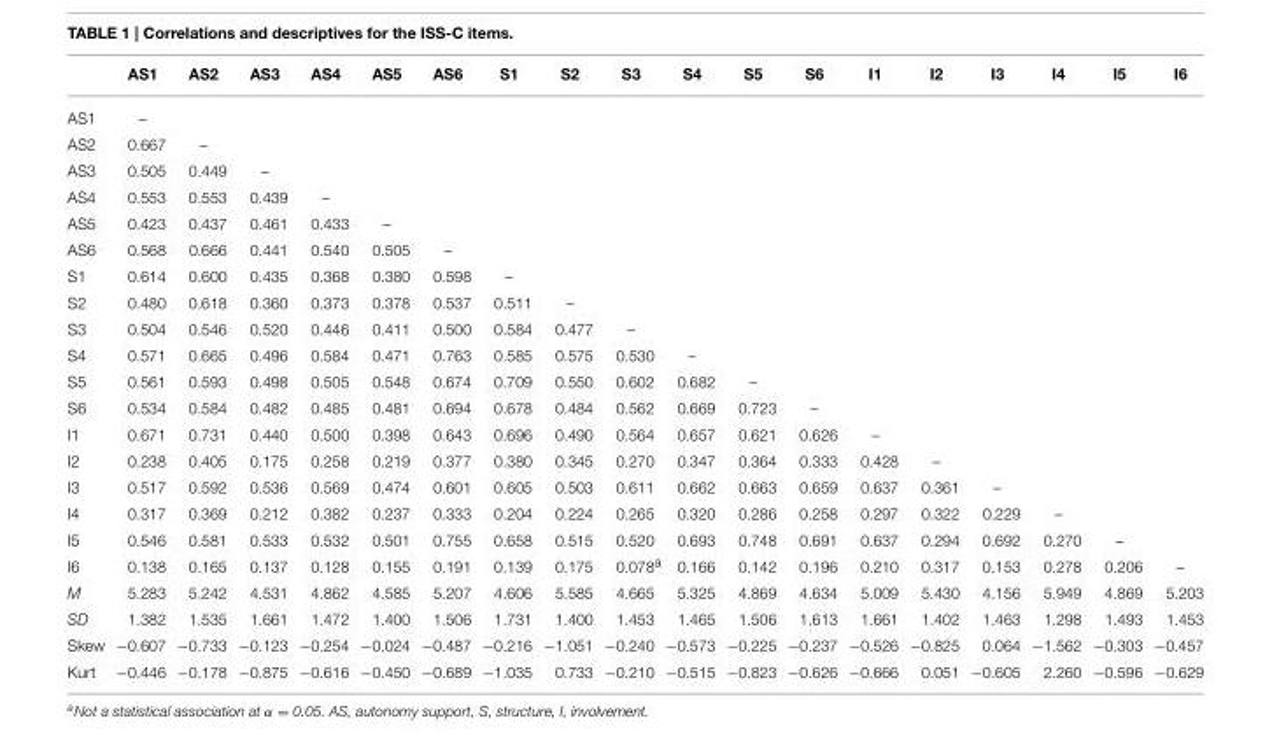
<table><thead><tr><td></td><td>AS1</td><td>AS2</td><td>AS3</td><td>AS4</td><td>AS5</td><td>AS6</td><td>S1</td><td>S2</td><td>S3</td><td>S4</td><td>S5</td><td>S6</td><td>I1</td><td>I2</td><td>I3</td><td>I4</td><td>I5</td><td>I6</td></tr></thead><tbody><tr><td>AS1</td><td>–</td><td></td><td></td><td></td><td></td><td></td><td></td><td></td><td></td><td></td><td></td><td></td><td></td><td></td><td></td><td></td><td></td><td></td></tr><tr><td>AS2</td><td>0.667</td><td>–</td><td></td><td></td><td></td><td></td><td></td><td></td><td></td><td></td><td></td><td></td><td></td><td></td><td></td><td></td><td></td><td></td></tr><tr><td>AS3</td><td>0.505</td><td>0.449</td><td>–</td><td></td><td></td><td></td><td></td><td></td><td></td><td></td><td></td><td></td><td></td><td></td><td></td><td></td><td></td><td></td></tr><tr><td>AS4</td><td>0.553</td><td>0.553</td><td>0.439</td><td>–</td><td></td><td></td><td></td><td></td><td></td><td></td><td></td><td></td><td></td><td></td><td></td><td></td><td></td><td></td></tr><tr><td>AS5</td><td>0.423</td><td>0.437</td><td>0.461</td><td>0.433</td><td>–</td><td></td><td></td><td></td><td></td><td></td><td></td><td></td><td></td><td></td><td></td><td></td><td></td><td></td></tr><tr><td>AS6</td><td>0.568</td><td>0.666</td><td>0.441</td><td>0.540</td><td>0.505</td><td>–</td><td></td><td></td><td></td><td></td><td></td><td></td><td></td><td></td><td></td><td></td><td></td><td></td></tr><tr><td>S1</td><td>0.614</td><td>0.600</td><td>0.435</td><td>0.368</td><td>0.380</td><td>0.598</td><td>–</td><td></td><td></td><td></td><td></td><td></td><td></td><td></td><td></td><td></td><td></td><td></td></tr><tr><td>S2</td><td>0.480</td><td>0.618</td><td>0.360</td><td>0.373</td><td>0.378</td><td>0.537</td><td>0.511</td><td>–</td><td></td><td></td><td></td><td></td><td></td><td></td><td></td><td></td><td></td><td></td></tr><tr><td>S3</td><td>0.504</td><td>0.546</td><td>0.520</td><td>0.446</td><td>0.411</td><td>0.500</td><td>0.584</td><td>0.477</td><td>–</td><td></td><td></td><td></td><td></td><td></td><td></td><td></td><td></td><td></td></tr><tr><td>S4</td><td>0.571</td><td>0.665</td><td>0.496</td><td>0.584</td><td>0.471</td><td>0.763</td><td>0.585</td><td>0.575</td><td>0.530</td><td>–</td><td></td><td></td><td></td><td></td><td></td><td></td><td></td><td></td></tr><tr><td>S5</td><td>0.561</td><td>0.593</td><td>0.498</td><td>0.505</td><td>0.548</td><td>0.674</td><td>0.709</td><td>0.550</td><td>0.602</td><td>0.682</td><td>–</td><td></td><td></td><td></td><td></td><td></td><td></td><td></td></tr><tr><td>S6</td><td>0.534</td><td>0.584</td><td>0.482</td><td>0.485</td><td>0.481</td><td>0.694</td><td>0.678</td><td>0.484</td><td>0.562</td><td>0.669</td><td>0.723</td><td>–</td><td></td><td></td><td></td><td></td><td></td><td></td></tr><tr><td>I1</td><td>0.671</td><td>0.731</td><td>0.440</td><td>0.500</td><td>0.398</td><td>0.643</td><td>0.696</td><td>0.490</td><td>0.564</td><td>0.657</td><td>0.621</td><td>0.626</td><td>–</td><td></td><td></td><td></td><td></td><td></td></tr><tr><td>I2</td><td>0.238</td><td>0.405</td><td>0.175</td><td>0.258</td><td>0.219</td><td>0.377</td><td>0.380</td><td>0.345</td><td>0.270</td><td>0.347</td><td>0.364</td><td>0.333</td><td>0.428</td><td>–</td><td></td><td></td><td></td><td></td></tr><tr><td>I3</td><td>0.517</td><td>0.592</td><td>0.536</td><td>0.569</td><td>0.474</td><td>0.601</td><td>0.605</td><td>0.503</td><td>0.611</td><td>0.662</td><td>0.663</td><td>0.659</td><td>0.637</td><td>0.361</td><td>–</td><td></td><td></td><td></td></tr><tr><td>I4</td><td>0.317</td><td>0.369</td><td>0.212</td><td>0.382</td><td>0.237</td><td>0.333</td><td>0.204</td><td>0.224</td><td>0.265</td><td>0.320</td><td>0.286</td><td>0.258</td><td>0.297</td><td>0.322</td><td>0.229</td><td>–</td><td></td><td></td></tr><tr><td>I5</td><td>0.546</td><td>0.581</td><td>0.533</td><td>0.532</td><td>0.501</td><td>0.755</td><td>0.658</td><td>0.515</td><td>0.520</td><td>0.693</td><td>0.748</td><td>0.691</td><td>0.637</td><td>0.294</td><td>0.692</td><td>0.270</td><td>–</td><td></td></tr><tr><td>I6</td><td>0.138</td><td>0.165</td><td>0.137</td><td>0.128</td><td>0.155</td><td>0.191</td><td>0.139</td><td>0.175</td><td>0.078<sup>a</sup></td><td>0.166</td><td>0.142</td><td>0.196</td><td>0.210</td><td>0.317</td><td>0.153</td><td>0.278</td><td>0.206</td><td>–</td></tr><tr><td>M</td><td>5.283</td><td>5.242</td><td>4.531</td><td>4.862</td><td>4.585</td><td>5.207</td><td>4.606</td><td>5.585</td><td>4.665</td><td>5.325</td><td>4.869</td><td>4.634</td><td>5.009</td><td>5.430</td><td>4.156</td><td>5.949</td><td>4.869</td><td>5.203</td></tr><tr><td>SD</td><td>1.382</td><td>1.535</td><td>1.661</td><td>1.472</td><td>1.400</td><td>1.506</td><td>1.731</td><td>1.400</td><td>1.453</td><td>1.465</td><td>1.506</td><td>1.613</td><td>1.661</td><td>1.402</td><td>1.463</td><td>1.298</td><td>1.493</td><td>1.453</td></tr><tr><td>Skew</td><td>−0.607</td><td>−0.733</td><td>−0.123</td><td>−0.254</td><td>−0.024</td><td>−0.487</td><td>−0.216</td><td>−1.051</td><td>−0.240</td><td>−0.573</td><td>−0.225</td><td>−0.237</td><td>−0.526</td><td>−0.825</td><td>0.064</td><td>−1.562</td><td>−0.303</td><td>−0.457</td></tr><tr><td>Kurt</td><td>−0.446</td><td>−0.178</td><td>−0.875</td><td>−0.616</td><td>−0.450</td><td>−0.689</td><td>−1.035</td><td>0.733</td><td>−0.210</td><td>−0.515</td><td>−0.823</td><td>−0.626</td><td>−0.666</td><td>0.051</td><td>−0.605</td><td>2.260</td><td>−0.596</td><td>−0.629</td></tr></tbody></table>